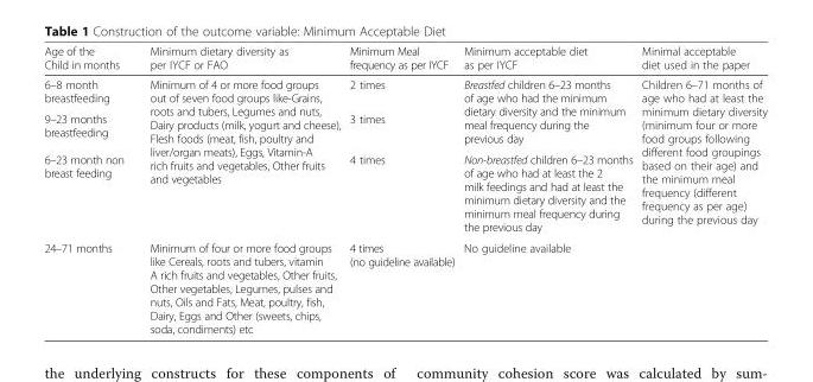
<table><thead><tr><td>Age of the Child in months</td><td>Minimum dietary diversity as per IYCF or FAO</td><td>Minimum Meal frequency as per IYCF</td><td>Minimum acceptable diet as per IYCF</td><td>Minimal acceptable diet used in the paper</td></tr></thead><tbody><tr><td>6–8 month breastfeeding</td><td rowspan="3">Minimum of 4 or more food groups out of seven food groups like-Grains, roots and tubers, Legumes and nuts, Dairy products (milk, yogurt and cheese), Flesh foods (meat, fish, poultry and liver/organ meats), Eggs, Vitamin-A rich fruits and vegetables, Other fruits and vegetables</td><td>2 times</td><td rowspan="2">Breastfed children 6–23 months of age who had the minimum dietary diversity and the minimum meal frequency during the previous day</td><td rowspan="4">Children 6–71 months of age who had at least the minimum dietary diversity (minimum four or more food groups following different food groupings based on their age) and the minimum meal frequency (different frequency as per age) during the previous day</td></tr><tr><td>9–23 months breastfeeding</td><td>3 times</td></tr><tr><td>6–23 month non breast feeding</td><td>4 times</td><td>Non-breastfed children 6–23 months of age who had at least the 2 milk feedings and had at least the minimum dietary diversity and the minimum meal frequency during the previous day</td></tr><tr><td>24–71 months</td><td>Minimum of four or more food groups like Cereals, roots and tubers, vitamin A rich fruits and vegetables, Other fruits, Other vegetables, Legumes, pulses and nuts, Oils and Fats, Meat, poultry, fish, Dairy, Eggs and Other (sweets, chips, soda, condiments) etc</td><td>4 times (no guideline available)</td><td>No guideline available</td></tr></tbody></table>